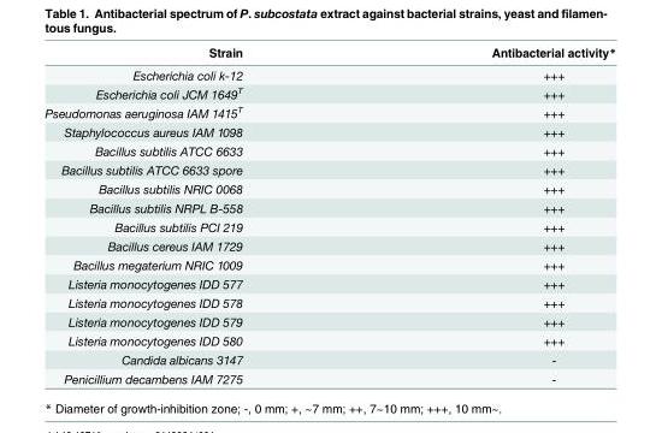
<table><thead><tr><td>Strain</td><td>Antibacterial activity*</td></tr></thead><tbody><tr><td>Escherichia coli k-12</td><td>+++</td></tr><tr><td>Escherichia coli JCM 1649<sup>T</sup></td><td>+++</td></tr><tr><td>Pseudomonas aeruginosa IAM 1415<sup>T</sup></td><td>+++</td></tr><tr><td>Staphylococcus aureus IAM 1098</td><td>+++</td></tr><tr><td>Bacillus subtilis ATCC 6633</td><td>+++</td></tr><tr><td>Bacillus subtilis ATCC 6633 spore</td><td>+++</td></tr><tr><td>Bacillus subtilis NRIC 0068</td><td>+++</td></tr><tr><td>Bacillus subtilis NRPL B-558</td><td>+++</td></tr><tr><td>Bacillus subtilis PCI 219</td><td>+++</td></tr><tr><td>Bacillus cereus IAM 1729</td><td>+++</td></tr><tr><td>Bacillus megaterium NRIC 1009</td><td>+++</td></tr><tr><td>Listeria monocytogenes IDD 577</td><td>+++</td></tr><tr><td>Listeria monocytogenes IDD 578</td><td>+++</td></tr><tr><td>Listeria monocytogenes IDD 579</td><td>+++</td></tr><tr><td>Listeria monocytogenes IDD 580</td><td>+++</td></tr><tr><td>Candida albicans 3147</td><td>-</td></tr><tr><td>Penicillium decambens IAM 7275</td><td>-</td></tr></tbody></table>